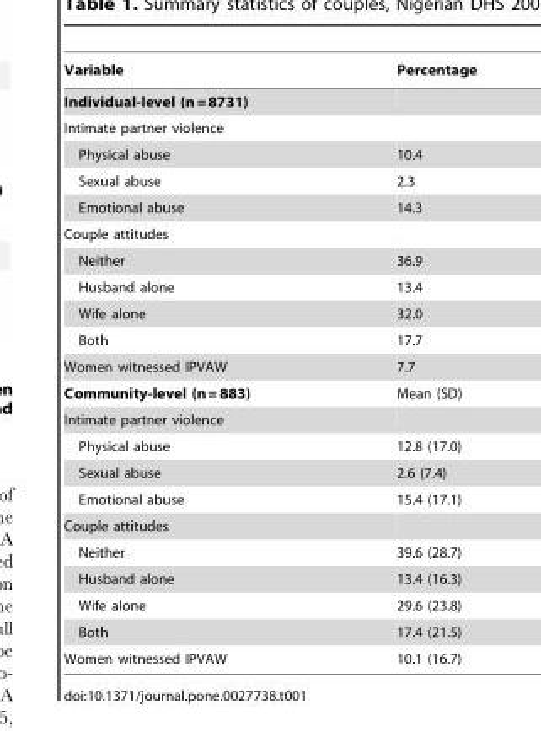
<table><thead><tr><td>Variable</td><td>Percentage</td></tr></thead><tbody><tr><td colspan="2">Individual-level (n = 8731)</td></tr><tr><td colspan="2">Intimate partner violence</td></tr><tr><td>Physical abuse</td><td>10.4</td></tr><tr><td>Sexual abuse</td><td>2.3</td></tr><tr><td>Emotional abuse</td><td>14.3</td></tr><tr><td colspan="2">Couple attitudes</td></tr><tr><td>Neither</td><td>36.9</td></tr><tr><td>Husband alone</td><td>13.4</td></tr><tr><td>Wife alone</td><td>32.0</td></tr><tr><td>Both</td><td>17.7</td></tr><tr><td>Women witnessed IPVAW</td><td>7.7</td></tr><tr><td>Community-level (n = 883)</td><td>Mean (SD)</td></tr><tr><td colspan="2">Intimate partner violence</td></tr><tr><td>Physical abuse</td><td>12.8 (17.0)</td></tr><tr><td>Sexual abuse</td><td>2.6 (7.4)</td></tr><tr><td>Emotional abuse</td><td>15.4 (17.1)</td></tr><tr><td colspan="2">Couple attitudes</td></tr><tr><td>Neither</td><td>39.6 (28.7)</td></tr><tr><td>Husband alone</td><td>13.4 (16.3)</td></tr><tr><td>Wife alone</td><td>29.6 (23.8)</td></tr><tr><td>Both</td><td>17.4 (21.5)</td></tr><tr><td>Women witnessed IPVAW</td><td>10.1 (16.7)</td></tr></tbody></table>